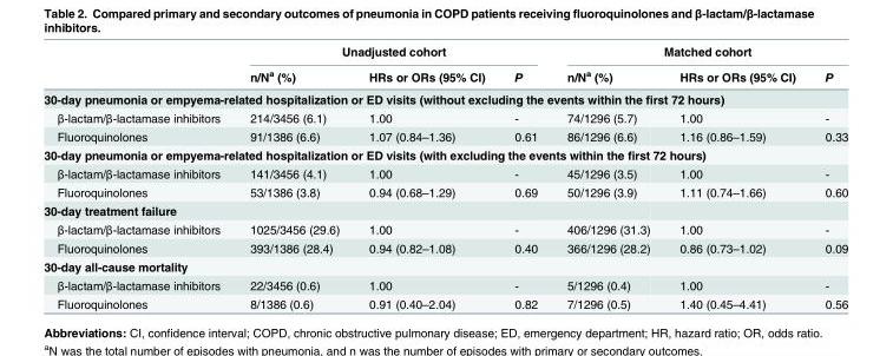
<table><thead><tr><td rowspan="2"></td><td colspan="3">Unadjusted cohort</td><td colspan="3">Matched cohort</td></tr><tr><td>n/N<sup>a</sup> (%)</td><td>HRs or ORs (95% CI)</td><td>P</td><td>n/N<sup>a</sup> (%)</td><td>HRs or ORs (95% CI)</td><td>P</td></tr></thead><tbody><tr><td colspan="7">30-day pneumonia or empyema-related hospitalization or ED visits (without excluding the events within the first 72 hours)</td></tr><tr><td>β-lactam/β-lactamase inhibitors</td><td>214/3456 (6.1)</td><td>1.00</td><td>-</td><td>74/1296 (5.7)</td><td>1.00</td><td>-</td></tr><tr><td>Fluoroquinolones</td><td>91/1386 (6.6)</td><td>1.07 (0.84–1.36)</td><td>0.61</td><td>86/1296 (6.6)</td><td>1.16 (0.86–1.59)</td><td>0.33</td></tr><tr><td colspan="7">30-day pneumonia or empyema-related hospitalization or ED visits (with excluding the events within the first 72 hours)</td></tr><tr><td>β-lactam/β-lactamase inhibitors</td><td>141/3456 (4.1)</td><td>1.00</td><td>-</td><td>45/1296 (3.5)</td><td>1.00</td><td>-</td></tr><tr><td>Fluoroquinolones</td><td>53/1386 (3.8)</td><td>0.94 (0.68–1.29)</td><td>0.69</td><td>50/1296 (3.9)</td><td>1.11 (0.74–1.66)</td><td>0.60</td></tr><tr><td colspan="7">30-day treatment failure</td></tr><tr><td>β-lactam/β-lactamase inhibitors</td><td>1025/3456 (29.6)</td><td>1.00</td><td>-</td><td>406/1296 (31.3)</td><td>1.00</td><td>-</td></tr><tr><td>Fluoroquinolones</td><td>393/1386 (28.4)</td><td>0.94 (0.82–1.08)</td><td>0.40</td><td>366/1296 (28.2)</td><td>0.86 (0.73–1.02)</td><td>0.09</td></tr><tr><td colspan="7">30-day all-cause mortality</td></tr><tr><td>β-lactam/β-lactamase inhibitors</td><td>22/3456 (0.6)</td><td>1.00</td><td>-</td><td>5/1296 (0.4)</td><td>1.00</td><td>-</td></tr><tr><td>Fluoroquinolones</td><td>8/1386 (0.6)</td><td>0.91 (0.40–2.04)</td><td>0.82</td><td>7/1296 (0.5)</td><td>1.40 (0.45–4.41)</td><td>0.56</td></tr></tbody></table>